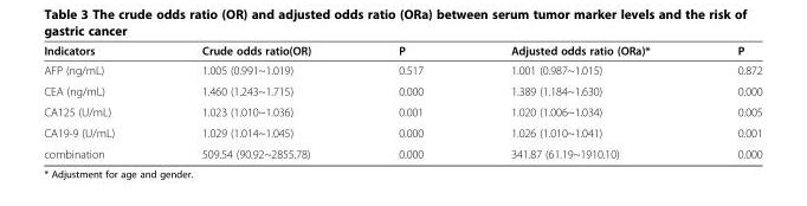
<table><thead><tr><td>Indicators</td><td>Crude odds ratio(OR)</td><td>P</td><td>Adjusted odds ratio (ORa)*</td><td>P</td></tr></thead><tbody><tr><td>AFP (ng/mL)</td><td>1.005 (0.991~1.019)</td><td>0.517</td><td>1.001 (0.987~1.015)</td><td>0.872</td></tr><tr><td>CEA (ng/mL)</td><td>1.460 (1.243~1.715)</td><td>0.000</td><td>1.389 (1.184~1.630)</td><td>0.000</td></tr><tr><td>CA125 (U/mL)</td><td>1.023 (1.010~1.036)</td><td>0.001</td><td>1.020 (1.006~1.034)</td><td>0.005</td></tr><tr><td>CA19-9 (U/mL)</td><td>1.029 (1.014~1.045)</td><td>0.000</td><td>1.026 (1.010~1.041)</td><td>0.001</td></tr><tr><td>combination</td><td>509.54 (90.92~2855.78)</td><td>0.000</td><td>341.87 (61.19~1910.10)</td><td>0.000</td></tr></tbody></table>